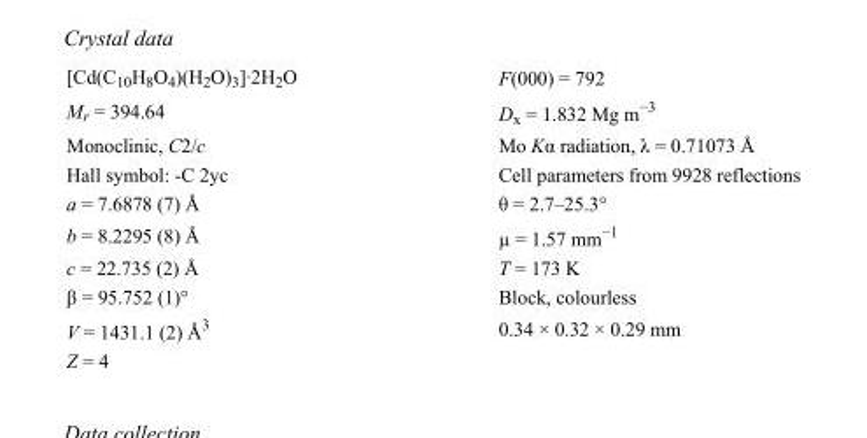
<table><tbody><tr><td>[Cd(C<sub>10</sub>H<sub>8</sub>O<sub>4</sub>)(H<sub>2</sub>O)<sub>3</sub>]·2H<sub>2</sub>O</td><td>F(000) = 792</td></tr><tr><td>M<sub>r</sub> = 394.64</td><td>D<sub>x</sub> = 1.832 Mg m<sup>−3</sup></td></tr><tr><td>Monoclinic, C2/c</td><td>Mo Kα radiation, λ = 0.71073 Å</td></tr><tr><td>Hall symbol: -C 2yc</td><td>Cell parameters from 9928 reflections</td></tr><tr><td>a = 7.6878 (7) Å</td><td>θ = 2.7–25.3°</td></tr><tr><td>b = 8.2295 (8) Å</td><td>µ = 1.57 mm<sup>−1</sup></td></tr><tr><td>c = 22.735 (2) Å</td><td>T = 173 K</td></tr><tr><td>β = 95.752 (1)°</td><td>Block, colourless</td></tr><tr><td>V = 1431.1 (2) Å<sup>3</sup></td><td>0.34 × 0.32 × 0.29 mm</td></tr><tr><td>Z = 4</td><td></td></tr></tbody></table>